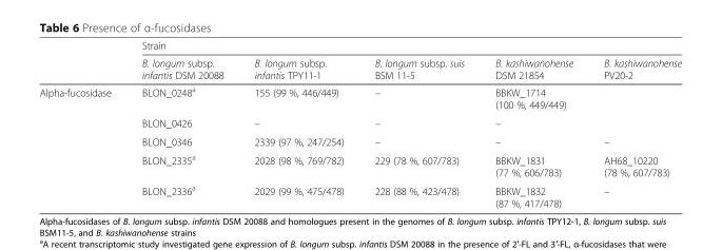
<table><thead><tr><td rowspan="2"></td><td colspan="5">Strain</td></tr><tr><td>B. longum subsp. infantis DSM 20088</td><td>B. longum subsp. infantis TPY11-1</td><td>B. longum subsp. suis BSM 11-5</td><td>B. kashiwanohense DSM 21854</td><td>B. kashiwanohense PV20-2</td></tr></thead><tbody><tr><td rowspan="5">Alpha-fucosidase</td><td>BLON_0248<sup>a</sup></td><td>155 (99 %, 446/449)</td><td>–</td><td>BBKW_1714 (100 %, 449/449)</td><td></td></tr><tr><td>BLON_0426</td><td>–</td><td>–</td><td>–</td><td></td></tr><tr><td>BLON_0346</td><td>2339 (97 %, 247/254)</td><td>–</td><td>–</td><td>–</td></tr><tr><td>BLON_2335<sup>a</sup></td><td>2028 (98 %, 769/782)</td><td>229 (78 %, 607/783)</td><td>BBKW_1831 (77 %, 606/783)</td><td>AH68_10220 (78 %, 607/783)</td></tr><tr><td>BLON_2336<sup>a</sup></td><td>2029 (99 %, 475/478)</td><td>228 (88 %, 423/478)</td><td>BBKW_1832 (87 %, 417/478)</td><td>–</td></tr></tbody></table>